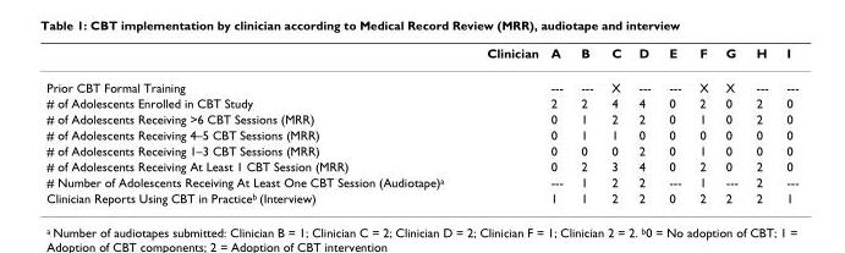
<table><thead><tr><td>Clinician</td><td>A</td><td>B</td><td>C</td><td>D</td><td>E</td><td>F</td><td>G</td><td>H</td><td>I</td></tr></thead><tbody><tr><td>Prior CBT Formal Training</td><td>---</td><td>---</td><td>X</td><td>---</td><td>---</td><td>X</td><td>X</td><td>---</td><td>---</td></tr><tr><td># of Adolescents Enrolled in CBT Study</td><td>2</td><td>2</td><td>4</td><td>4</td><td>0</td><td>2</td><td>0</td><td>2</td><td>0</td></tr><tr><td># of Adolescents Receiving &gt;6 CBT Sessions (MRR)</td><td>0</td><td>1</td><td>2</td><td>2</td><td>0</td><td>1</td><td>0</td><td>2</td><td>0</td></tr><tr><td># of Adolescents Receiving 4–5 CBT Sessions (MRR)</td><td>0</td><td>1</td><td>1</td><td>0</td><td>0</td><td>0</td><td>0</td><td>0</td><td>0</td></tr><tr><td># of Adolescents Receiving 1–3 CBT Sessions (MRR)</td><td>0</td><td>0</td><td>0</td><td>2</td><td>0</td><td>1</td><td>0</td><td>0</td><td>0</td></tr><tr><td># of Adolescents Receiving At Least 1 CBT Session (MRR)</td><td>0</td><td>2</td><td>3</td><td>4</td><td>0</td><td>2</td><td>0</td><td>2</td><td>0</td></tr><tr><td># Number of Adolescents Receiving At Least One CBT Session (Audiotape)<sup>a</sup></td><td>---</td><td>1</td><td>2</td><td>2</td><td>---</td><td>1</td><td>---</td><td>2</td><td>---</td></tr><tr><td>Clinician Reports Using CBT in Practice<sup>b</sup> (Interview)</td><td>1</td><td>1</td><td>2</td><td>2</td><td>0</td><td>2</td><td>2</td><td>2</td><td>1</td></tr></tbody></table>